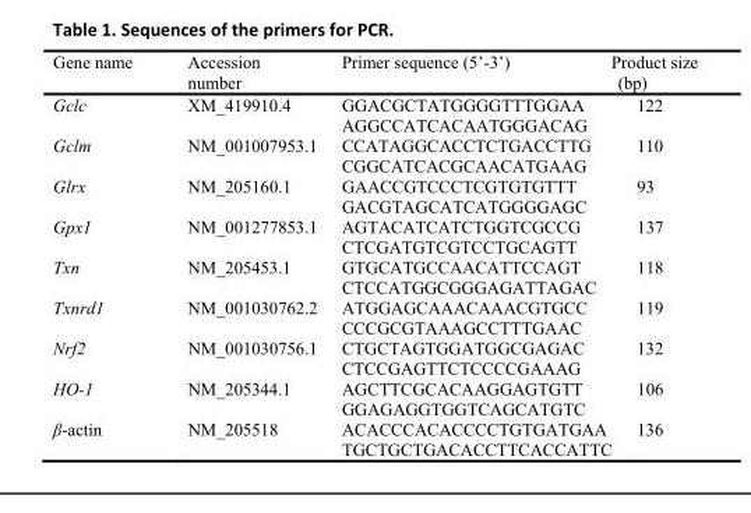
<table><tbody><tr><td>Gene name</td><td>Accession number</td><td>Primer sequence (5’-3’)</td><td colspan="2">Product size (bp)</td></tr><tr><td rowspan="2">Gclc</td><td>XM_419910.4</td><td colspan="2">GGACGCTATGGGGTTTGGAA</td><td>122</td></tr><tr><td></td><td colspan="2">AGGCCATCACAATGGGACAG</td><td></td></tr><tr><td rowspan="2">Gclm</td><td>NM_001007953.1</td><td colspan="2">CCATAGGCACCTCTGACCTTG</td><td>110</td></tr><tr><td></td><td colspan="2">CGGCATCACGCAACATGAAG</td><td></td></tr><tr><td rowspan="2">Glrx</td><td>NM_205160.1</td><td colspan="2">GAACCGTCCCTCGTGTGTTT</td><td>93</td></tr><tr><td></td><td colspan="2">GACGTAGCATCATGGGGAGC</td><td></td></tr><tr><td rowspan="2">Gpx1</td><td>NM_001277853.1</td><td colspan="2">AGTACATCATCTGGTCGCCG</td><td>137</td></tr><tr><td></td><td colspan="2">CTCGATGTCGTCCTGCAGTT</td><td></td></tr><tr><td rowspan="2">Txn</td><td>NM_205453.1</td><td colspan="2">GTGCATGCCAACATTCCAGT</td><td>118</td></tr><tr><td></td><td colspan="2">CTCCATGGCGGGAGATTAGAC</td><td></td></tr><tr><td rowspan="2">Txnrd1</td><td>NM_001030762.2</td><td colspan="2">ATGGAGCAAACAAACGTGCC</td><td>119</td></tr><tr><td></td><td colspan="2">CCCGCGTAAAGCCTTTGAAC</td><td></td></tr><tr><td rowspan="2">Nrf2</td><td>NM_001030756.1</td><td colspan="2">CTGCTAGTGGATGGCGAGAC</td><td>132</td></tr><tr><td></td><td colspan="2">CTCCGAGTTCTCCCCGAAAG</td><td></td></tr><tr><td rowspan="2">HO-1</td><td>NM_205344.1</td><td colspan="2">AGCTTCGCACAAGGAGTGTT</td><td>106</td></tr><tr><td></td><td colspan="2">GGAGAGGTGGTCAGCATGTC</td><td></td></tr><tr><td rowspan="2">β-actin</td><td>NM_205518</td><td colspan="2">ACACCCACACCCCTGTGATGAA</td><td>136</td></tr><tr><td></td><td colspan="2">TGCTGCTGACACCTTCACCATTC</td><td></td></tr></tbody></table>